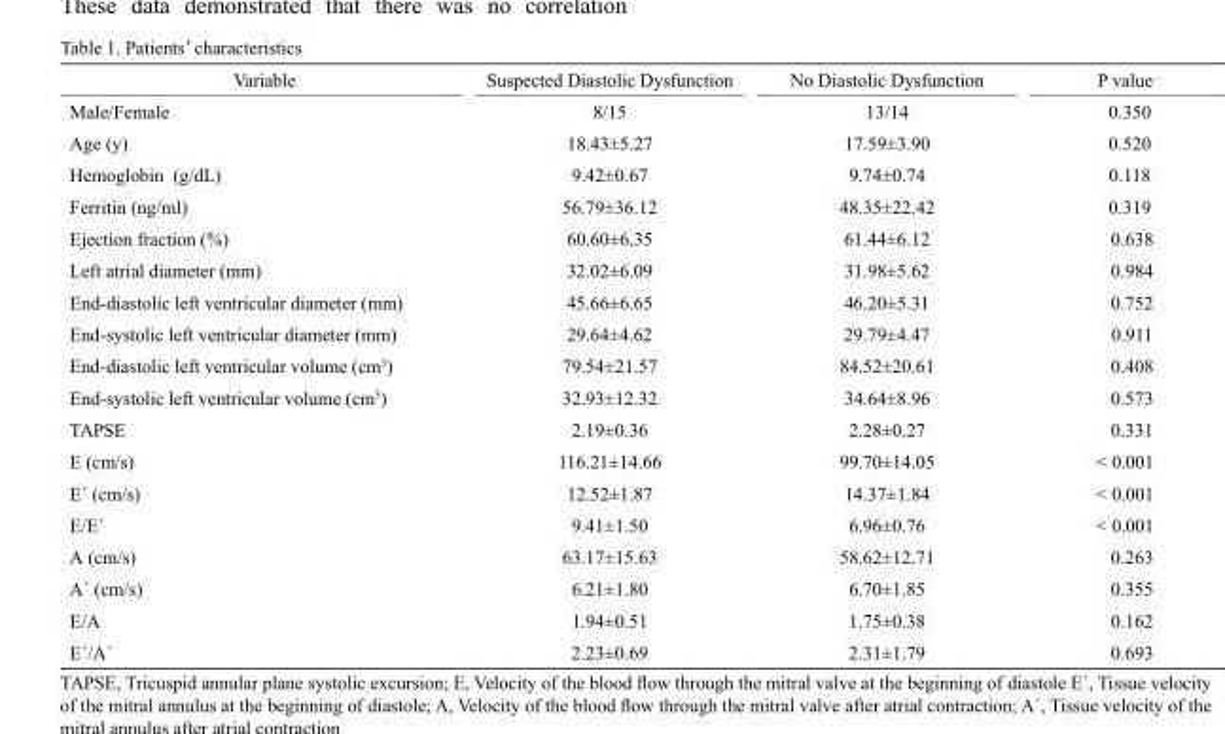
<table><thead><tr><td>Variable</td><td>Suspected Diastolic Dysfunction</td><td>No Diastolic Dysfunction</td><td>P value</td></tr></thead><tbody><tr><td>Male/Female</td><td>8/15</td><td>13/14</td><td>0.350</td></tr><tr><td>Age (y)</td><td>18.43±5.27</td><td>17.59±3.90</td><td>0.520</td></tr><tr><td>Hemoglobin (g/dL)</td><td>9.42±0.67</td><td>9.74±0.74</td><td>0.118</td></tr><tr><td>Ferritin (ng/ml)</td><td>56.79±36.12</td><td>48.35±22.42</td><td>0.319</td></tr><tr><td>Ejection fraction (%)</td><td>60.60±6.35</td><td>61.44±6.12</td><td>0.638</td></tr><tr><td>Left atrial diameter (mm)</td><td>32.02±6.09</td><td>31.98±5.62</td><td>0.984</td></tr><tr><td>End-diastolic left ventricular diameter (mm)</td><td>45.66±6.65</td><td>46.20±5.31</td><td>0.752</td></tr><tr><td>End-systolic left ventricular diameter (mm)</td><td>29.64±4.62</td><td>29.79±4.47</td><td>0.911</td></tr><tr><td>End-diastolic left ventricular volume (cm<sup>3</sup>)</td><td>79.54±21.57</td><td>84.52±20.61</td><td>0.408</td></tr><tr><td>End-systolic left ventricular volume (cm<sup>3</sup>)</td><td>32.93±12.32</td><td>34.64±8.96</td><td>0.573</td></tr><tr><td>TAPSE</td><td>2.19±0.36</td><td>2.28±0.27</td><td>0.331</td></tr><tr><td>E (cm/s)</td><td>116.21±14.66</td><td>99.70±14.05</td><td>&lt; 0.001</td></tr><tr><td>E´ (cm/s)</td><td>12.52±1.87</td><td>14.37±1.84</td><td>&lt; 0.001</td></tr><tr><td>E/E´</td><td>9.41±1.50</td><td>6.96±0.76</td><td>&lt; 0.001</td></tr><tr><td>A (cm/s)</td><td>63.17±15.63</td><td>58.62±12.71</td><td>0.263</td></tr><tr><td>A´ (cm/s)</td><td>6.21±1.80</td><td>6.70±1.85</td><td>0.355</td></tr><tr><td>E/A</td><td>1.94±0.51</td><td>1.75±0.38</td><td>0.162</td></tr><tr><td>E´/A´</td><td>2.23±0.69</td><td>2.31±1.79</td><td>0.693</td></tr></tbody></table>